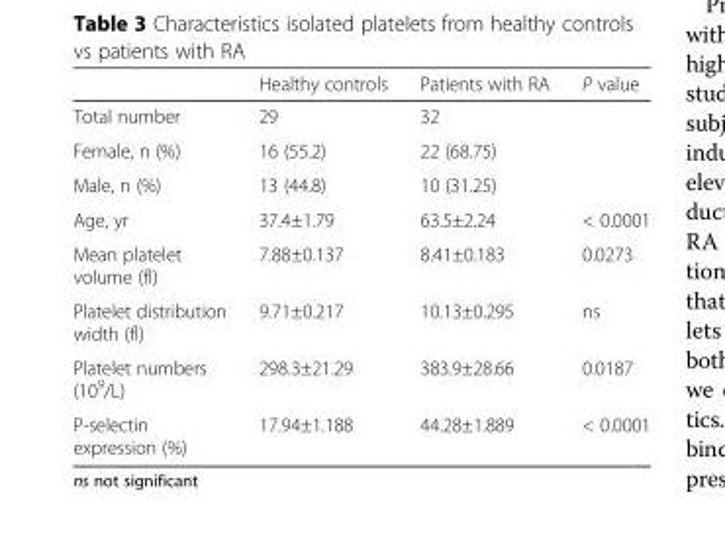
<table><thead><tr><td></td><td>Healthy controls</td><td>Patients with RA</td><td>P value</td></tr></thead><tbody><tr><td>Total number</td><td>29</td><td>32</td><td></td></tr><tr><td>Female, n (%)</td><td>16 (55.2)</td><td>22 (68.75)</td><td></td></tr><tr><td>Male, n (%)</td><td>13 (44.8)</td><td>10 (31.25)</td><td></td></tr><tr><td>Age, yr</td><td>37.4±1.79</td><td>63.5±2.24</td><td>&lt; 0.0001</td></tr><tr><td>Mean platelet volume (fl)</td><td>7.88±0.137</td><td>8.41±0.183</td><td>0.0273</td></tr><tr><td>Platelet distribution width (fl)</td><td>9.71±0.217</td><td>10.13±0.295</td><td>ns</td></tr><tr><td>Platelet numbers (10<sup>9</sup>/L)</td><td>298.3±21.29</td><td>383.9±28.66</td><td>0.0187</td></tr><tr><td>P-selectin expression (%)</td><td>17.94±1.188</td><td>44.28±1.889</td><td>&lt; 0.0001</td></tr></tbody></table>